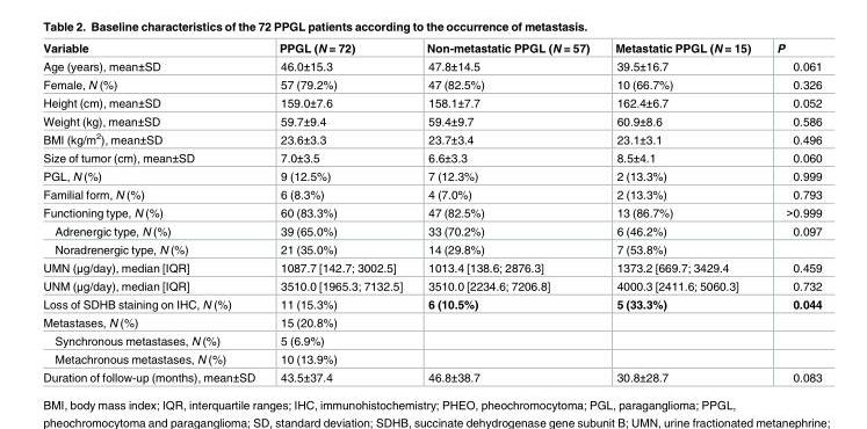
<table><thead><tr><td>Variable</td><td>PPGL (N = 72)</td><td>Non-metastatic PPGL (N = 57)</td><td>Metastatic PPGL (N = 15)</td><td>P</td></tr></thead><tbody><tr><td>Age (years), mean±SD</td><td>46.0±15.3</td><td>47.8±14.5</td><td>39.5±16.7</td><td>0.061</td></tr><tr><td>Female, N (%)</td><td>57 (79.2%)</td><td>47 (82.5%)</td><td>10 (66.7%)</td><td>0.326</td></tr><tr><td>Height (cm), mean±SD</td><td>159.0±7.6</td><td>158.1±7.7</td><td>162.4±6.7</td><td>0.052</td></tr><tr><td>Weight (kg), mean±SD</td><td>59.7±9.4</td><td>59.4±9.7</td><td>60.9±8.6</td><td>0.586</td></tr><tr><td>BMI (kg/m<sup>2</sup>), mean±SD</td><td>23.6±3.3</td><td>23.7±3.4</td><td>23.1±3.1</td><td>0.496</td></tr><tr><td>Size of tumor (cm), mean±SD</td><td>7.0±3.5</td><td>6.6±3.3</td><td>8.5±4.1</td><td>0.060</td></tr><tr><td>PGL, N (%)</td><td>9 (12.5%)</td><td>7 (12.3%)</td><td>2 (13.3%)</td><td>0.999</td></tr><tr><td>Familial form, N (%)</td><td>6 (8.3%)</td><td>4 (7.0%)</td><td>2 (13.3%)</td><td>0.793</td></tr><tr><td>Functioning type, N (%)</td><td>60 (83.3%)</td><td>47 (82.5%)</td><td>13 (86.7%)</td><td>&gt;0.999</td></tr><tr><td>Adrenergic type, N (%)</td><td>39 (65.0%)</td><td>33 (70.2%)</td><td>6 (46.2%)</td><td>0.097</td></tr><tr><td>Noradrenergic type, N (%)</td><td>21 (35.0%)</td><td>14 (29.8%)</td><td>7 (53.8%)</td><td></td></tr><tr><td>UMN (μg/day), median [IQR]</td><td>1087.7 [142.7; 3002.5]</td><td>1013.4 [138.6; 2876.3]</td><td>1373.2 [669.7; 3429.4</td><td>0.459</td></tr><tr><td>UNM (μg/day), median [IQR]</td><td>3510.0 [1965.3; 7132.5]</td><td>3510.0 [2234.6; 7206.8]</td><td>4000.3 [2411.6; 5060.3]</td><td>0.732</td></tr><tr><td>Loss of SDHB staining on IHC, N (%)</td><td>11 (15.3%)</td><td>6 (10.5%)</td><td>5 (33.3%)</td><td>0.044</td></tr><tr><td>Metastases, N (%)</td><td>15 (20.8%)</td><td></td><td></td><td></td></tr><tr><td>Synchronous metastases, N (%)</td><td>5 (6.9%)</td><td></td><td></td><td></td></tr><tr><td>Metachronous metastases, N (%)</td><td>10 (13.9%)</td><td></td><td></td><td></td></tr><tr><td>Duration of follow-up (months), mean±SD</td><td>43.5±37.4</td><td>46.8±38.7</td><td>30.8±28.7</td><td>0.083</td></tr></tbody></table>